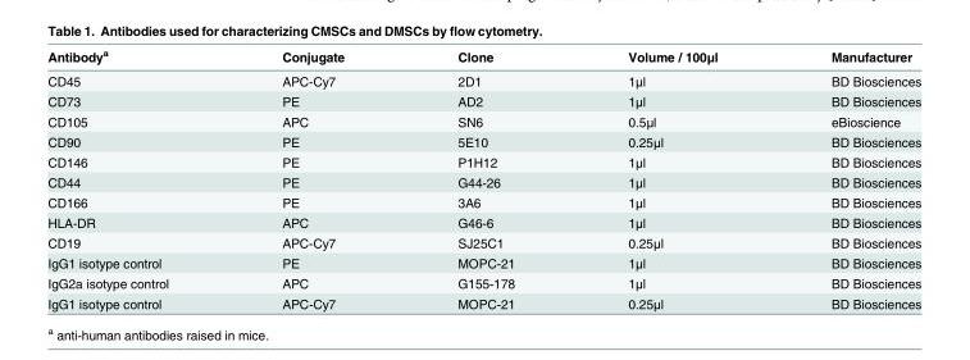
<table><thead><tr><td>Antibody<sup>a</sup></td><td>Conjugate</td><td>Clone</td><td>Volume / 100μl</td><td>Manufacturer</td></tr></thead><tbody><tr><td>CD45</td><td>APC-Cy7</td><td>2D1</td><td>1μl</td><td>BD Biosciences</td></tr><tr><td>CD73</td><td>PE</td><td>AD2</td><td>1μl</td><td>BD Biosciences</td></tr><tr><td>CD105</td><td>APC</td><td>SN6</td><td>0.5μl</td><td>eBioscience</td></tr><tr><td>CD90</td><td>PE</td><td>5E10</td><td>0.25μl</td><td>BD Biosciences</td></tr><tr><td>CD146</td><td>PE</td><td>P1H12</td><td>1μl</td><td>BD Biosciences</td></tr><tr><td>CD44</td><td>PE</td><td>G44-26</td><td>1μl</td><td>BD Biosciences</td></tr><tr><td>CD166</td><td>PE</td><td>3A6</td><td>1μl</td><td>BD Biosciences</td></tr><tr><td>HLA-DR</td><td>APC</td><td>G46-6</td><td>1μl</td><td>BD Biosciences</td></tr><tr><td>CD19</td><td>APC-Cy7</td><td>SJ25C1</td><td>0.25μl</td><td>BD Biosciences</td></tr><tr><td>IgG1 isotype control</td><td>PE</td><td>MOPC-21</td><td>1μl</td><td>BD Biosciences</td></tr><tr><td>IgG2a isotype control</td><td>APC</td><td>G155-178</td><td>1μl</td><td>BD Biosciences</td></tr><tr><td>IgG1 isotype control</td><td>APC-Cy7</td><td>MOPC-21</td><td>0.25μl</td><td>BD Biosciences</td></tr></tbody></table>